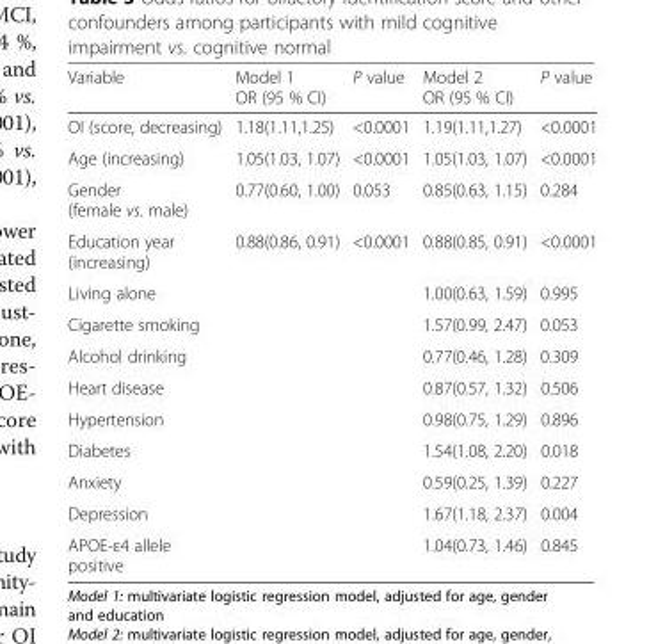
<table><thead><tr><td>Variable</td><td>Model 1 OR (95 % CI)</td><td>P value</td><td>Model 2 OR (95 % CI)</td><td>P value</td></tr></thead><tbody><tr><td>OI (score, decreasing)</td><td>1.18(1.11,1.25)</td><td>&lt;0.0001</td><td>1.19(1.11,1.27)</td><td>&lt;0.0001</td></tr><tr><td>Age (increasing)</td><td>1.05(1.03, 1.07)</td><td>&lt;0.0001</td><td>1.05(1.03, 1.07)</td><td>&lt;0.0001</td></tr><tr><td>Gender (female vs. male)</td><td>0.77(0.60, 1.00)</td><td>0.053</td><td>0.85(0.63, 1.15)</td><td>0.284</td></tr><tr><td>Education year (increasing)</td><td>0.88(0.86, 0.91)</td><td>&lt;0.0001</td><td>0.88(0.85, 0.91)</td><td>&lt;0.0001</td></tr><tr><td>Living alone</td><td></td><td></td><td>1.00(0.63, 1.59)</td><td>0.995</td></tr><tr><td>Cigarette smoking</td><td></td><td></td><td>1.57(0.99, 2.47)</td><td>0.053</td></tr><tr><td>Alcohol drinking</td><td></td><td></td><td>0.77(0.46, 1.28)</td><td>0.309</td></tr><tr><td>Heart disease</td><td></td><td></td><td>0.87(0.57, 1.32)</td><td>0.506</td></tr><tr><td>Hypertension</td><td></td><td></td><td>0.98(0.75, 1.29)</td><td>0.896</td></tr><tr><td>Diabetes</td><td></td><td></td><td>1.54(1.08, 2.20)</td><td>0.018</td></tr><tr><td>Anxiety</td><td></td><td></td><td>0.59(0.25, 1.39)</td><td>0.227</td></tr><tr><td>Depression</td><td></td><td></td><td>1.67(1.18, 2.37)</td><td>0.004</td></tr><tr><td>APOE-ε4 allele positive</td><td></td><td></td><td>1.04(0.73, 1.46)</td><td>0.845</td></tr></tbody></table>